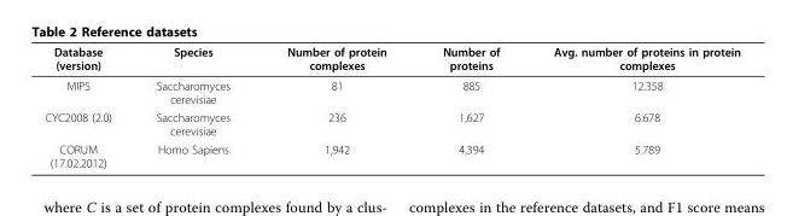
<table><thead><tr><td>Database (version)</td><td>Species</td><td>Number of protein complexes</td><td>Number of proteins</td><td>Avg. number of proteins in protein complexes</td></tr></thead><tbody><tr><td>MIPS</td><td>Saccharomyces cerevisiae</td><td>81</td><td>885</td><td>12.358</td></tr><tr><td>CYC2008 (2.0)</td><td>Saccharomyces cerevisiae</td><td>236</td><td>1,627</td><td>6.678</td></tr><tr><td>CORUM (17.02.2012)</td><td>Homo Sapiens</td><td>1,942</td><td>4,394</td><td>5.789</td></tr></tbody></table>